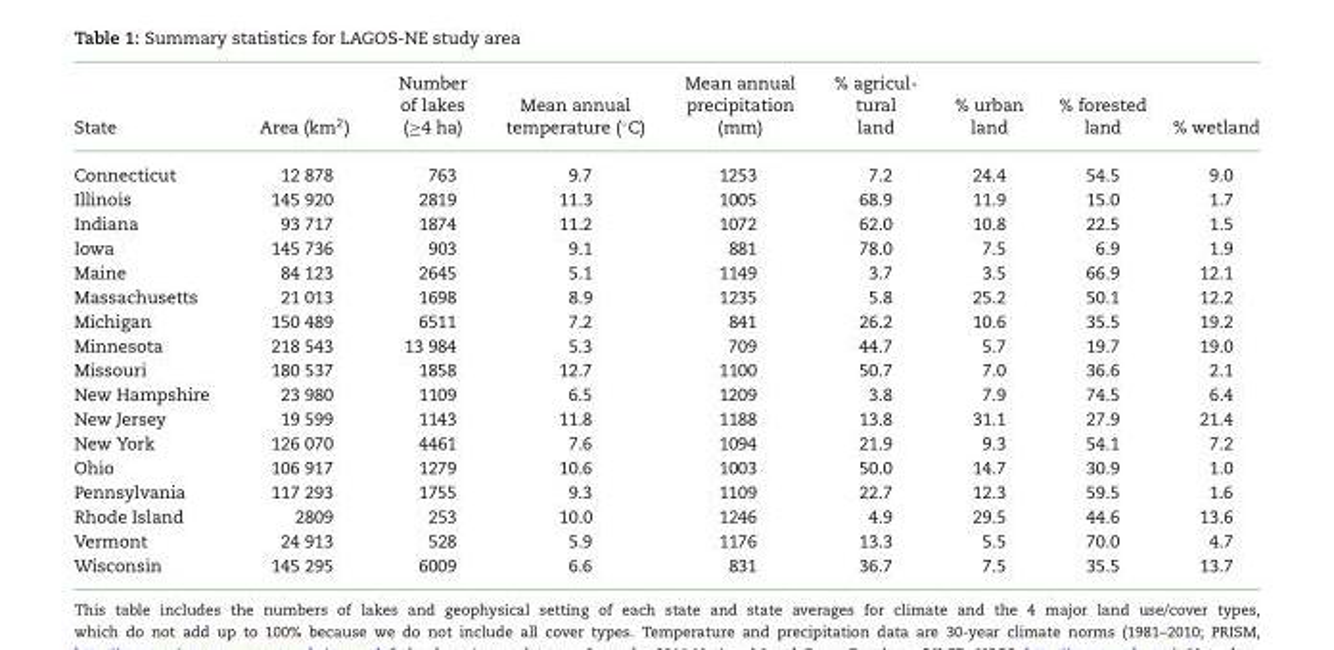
<table><thead><tr><td>State</td><td>Area (km<sup>2</sup>)</td><td>Number of lakes (≥4 ha)</td><td>Mean annual temperature (◦C)</td><td>Mean annual precipitation (mm)</td><td>% agricul- tural land</td><td>% urban land</td><td>% forested land</td><td>% wetland</td></tr></thead><tbody><tr><td>Connecticut</td><td>12 878</td><td>763</td><td>9.7</td><td>1253</td><td>7.2</td><td>24.4</td><td>54.5</td><td>9.0</td></tr><tr><td>Illinois</td><td>145 920</td><td>2819</td><td>11.3</td><td>1005</td><td>68.9</td><td>11.9</td><td>15.0</td><td>1.7</td></tr><tr><td>Indiana</td><td>93 717</td><td>1874</td><td>11.2</td><td>1072</td><td>62.0</td><td>10.8</td><td>22.5</td><td>1.5</td></tr><tr><td>Iowa</td><td>145 736</td><td>903</td><td>9.1</td><td>881</td><td>78.0</td><td>7.5</td><td>6.9</td><td>1.9</td></tr><tr><td>Maine</td><td>84 123</td><td>2645</td><td>5.1</td><td>1149</td><td>3.7</td><td>3.5</td><td>66.9</td><td>12.1</td></tr><tr><td>Massachusetts</td><td>21 013</td><td>1698</td><td>8.9</td><td>1235</td><td>5.8</td><td>25.2</td><td>50.1</td><td>12.2</td></tr><tr><td>Michigan</td><td>150 489</td><td>6511</td><td>7.2</td><td>841</td><td>26.2</td><td>10.6</td><td>35.5</td><td>19.2</td></tr><tr><td>Minnesota</td><td>218 543</td><td>13 984</td><td>5.3</td><td>709</td><td>44.7</td><td>5.7</td><td>19.7</td><td>19.0</td></tr><tr><td>Missouri</td><td>180 537</td><td>1858</td><td>12.7</td><td>1100</td><td>50.7</td><td>7.0</td><td>36.6</td><td>2.1</td></tr><tr><td>New Hampshire</td><td>23 980</td><td>1109</td><td>6.5</td><td>1209</td><td>3.8</td><td>7.9</td><td>74.5</td><td>6.4</td></tr><tr><td>New Jersey</td><td>19 599</td><td>1143</td><td>11.8</td><td>1188</td><td>13.8</td><td>31.1</td><td>27.9</td><td>21.4</td></tr><tr><td>New York</td><td>126 070</td><td>4461</td><td>7.6</td><td>1094</td><td>21.9</td><td>9.3</td><td>54.1</td><td>7.2</td></tr><tr><td>Ohio</td><td>106 917</td><td>1279</td><td>10.6</td><td>1003</td><td>50.0</td><td>14.7</td><td>30.9</td><td>1.0</td></tr><tr><td>Pennsylvania</td><td>117 293</td><td>1755</td><td>9.3</td><td>1109</td><td>22.7</td><td>12.3</td><td>59.5</td><td>1.6</td></tr><tr><td>Rhode Island</td><td>2809</td><td>253</td><td>10.0</td><td>1246</td><td>4.9</td><td>29.5</td><td>44.6</td><td>13.6</td></tr><tr><td>Vermont</td><td>24 913</td><td>528</td><td>5.9</td><td>1176</td><td>13.3</td><td>5.5</td><td>70.0</td><td>4.7</td></tr><tr><td>Wisconsin</td><td>145 295</td><td>6009</td><td>6.6</td><td>831</td><td>36.7</td><td>7.5</td><td>35.5</td><td>13.7</td></tr></tbody></table>